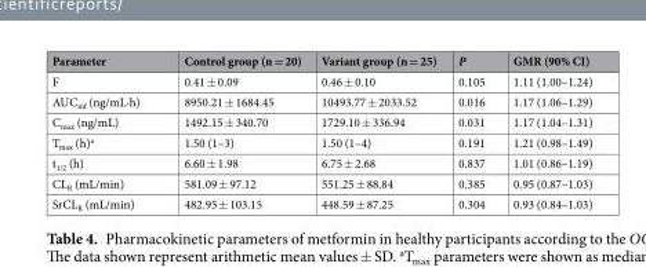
<table><thead><tr><td>Parameter</td><td>Control group (n = 20)</td><td>Variant group (n = 25)</td><td>P</td><td>GMR (90% CI)</td></tr></thead><tbody><tr><td>F</td><td>0.41 ± 0.09</td><td>0.46 ± 0.10</td><td>0.105</td><td>1.11 (1.00–1.24)</td></tr><tr><td>AUC<sub>inf</sub> (ng/mL·h)</td><td>8950.21 ± 1684.45</td><td>10493.77 ± 2033.52</td><td>0.016</td><td>1.17 (1.06–1.29)</td></tr><tr><td>C<sub>max</sub> (ng/mL)</td><td>1492.15 ± 340.70</td><td>1729.10 ± 336.94</td><td>0.031</td><td>1.17 (1.04–1.31)</td></tr><tr><td>T<sub>max</sub> (h)<sup>a</sup></td><td>1.50 (1–3)</td><td>1.50 (1–4)</td><td>0.191</td><td>1.21 (0.98–1.49)</td></tr><tr><td>t<sub>1/2</sub> (h)</td><td>6.60 ± 1.98</td><td>6.75 ± 2.68</td><td>0.837</td><td>1.01 (0.86–1.19)</td></tr><tr><td>CL<sub>R</sub> (mL/min)</td><td>581.09 ± 97.12</td><td>551.25 ± 88.84</td><td>0.385</td><td>0.95 (0.87–1.03)</td></tr><tr><td>SrCL<sub>R</sub> (mL/min)</td><td>482.95 ± 103.15</td><td>448.59 ± 87.25</td><td>0.304</td><td>0.93 (0.84–1.03)</td></tr></tbody></table>